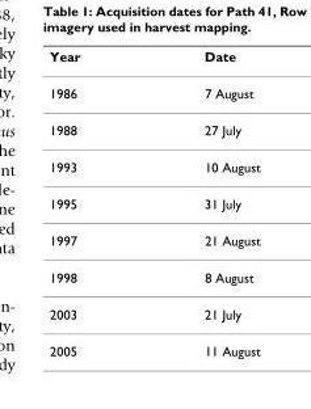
<table><thead><tr><td>Year</td><td>Date</td></tr></thead><tbody><tr><td>1986</td><td>7 August</td></tr><tr><td>1988</td><td>27 July</td></tr><tr><td>1993</td><td>10 August</td></tr><tr><td>1995</td><td>31 July</td></tr><tr><td>1997</td><td>21 August</td></tr><tr><td>1998</td><td>8 August</td></tr><tr><td>2003</td><td>21 July</td></tr><tr><td>2005</td><td>11 August</td></tr></tbody></table>